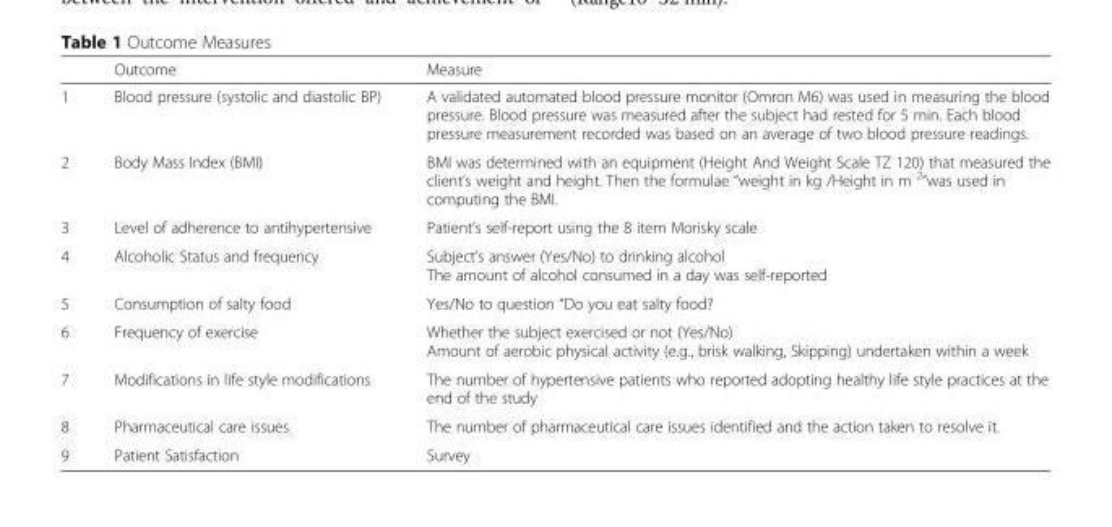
<table><thead><tr><td></td><td>Outcome</td><td>Measure</td></tr></thead><tbody><tr><td>1</td><td>Blood pressure (systolic and diastolic BP)</td><td>A validated automated blood pressure monitor (Omron M6) was used in measuring the blood pressure. Blood pressure was measured after the subject had rested for 5 min. Each blood pressure measurement recorded was based on an average of two blood pressure readings.</td></tr><tr><td>2</td><td>Body Mass Index (BMI)</td><td>BMI was determined with an equipment (Height And Weight Scale TZ 120) that measured the client’s weight and height. Then the formulae “weight in kg /Height in m <sup>2</sup>”was used in computing the BMI.</td></tr><tr><td>3</td><td>Level of adherence to antihypertensive</td><td>Patient’s self-report using the 8 item Morisky scale</td></tr><tr><td>4</td><td>Alcoholic Status and frequency</td><td>Subject’s answer (Yes/No) to drinking alcohol The amount of alcohol consumed in a day was self-reported</td></tr><tr><td>5</td><td>Consumption of salty food</td><td>Yes/No to question “Do you eat salty food?</td></tr><tr><td>6</td><td>Frequency of exercise</td><td>Whether the subject exercised or not (Yes/No) Amount of aerobic physical activity (e.g., brisk walking, Skipping) undertaken within a week</td></tr><tr><td>7</td><td>Modifications in life style modifications</td><td>The number of hypertensive patients who reported adopting healthy life style practices at the end of the study</td></tr><tr><td>8</td><td>Pharmaceutical care issues</td><td>The number of pharmaceutical care issues identified and the action taken to resolve it.</td></tr><tr><td>9</td><td>Patient Satisfaction</td><td>Survey</td></tr></tbody></table>